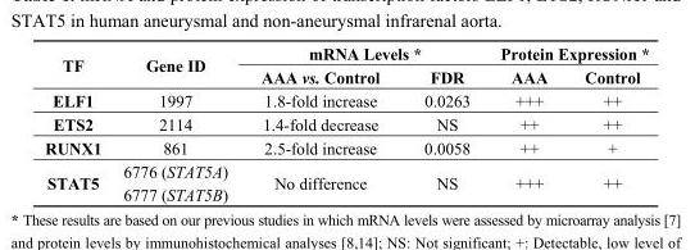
<table><thead><tr><td rowspan="2">TF</td><td rowspan="2">Gene ID</td><td colspan="2">mRNA Levels *</td><td colspan="2">Protein Expression *</td></tr><tr><td>AAA vs. Control</td><td>FDR</td><td>AAA</td><td>Control</td></tr></thead><tbody><tr><td>ELF1</td><td>1997</td><td>1.8-fold increase</td><td>0.0263</td><td>+++</td><td>++</td></tr><tr><td>ETS2</td><td>2114</td><td>1.4-fold decrease</td><td>NS</td><td>++</td><td>++</td></tr><tr><td>RUNX1</td><td>861</td><td>2.5-fold increase</td><td>0.0058</td><td>++</td><td>+</td></tr><tr><td rowspan="2">STAT5</td><td>6776 (STAT5A)</td><td rowspan="2">No difference</td><td rowspan="2">NS</td><td rowspan="2">+++</td><td rowspan="2">++</td></tr><tr><td>6777 (STAT5B)</td></tr></tbody></table>